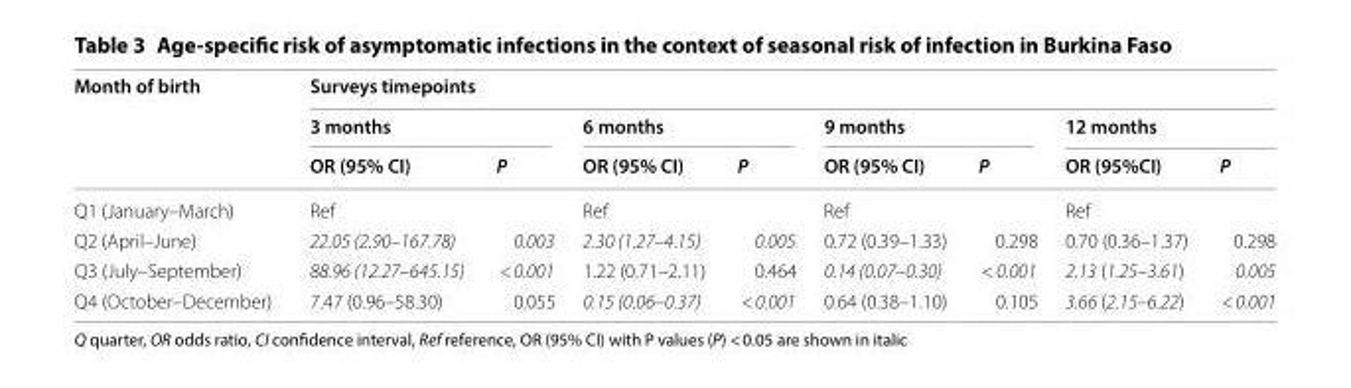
<table><thead><tr><td rowspan="3">Month of birth</td><td colspan="8">Surveys timepoints</td></tr><tr><td colspan="2">3 months</td><td colspan="2">6 months</td><td colspan="2">9 months</td><td colspan="2">12 months</td></tr><tr><td>OR (95% CI)</td><td>P</td><td>OR (95% CI)</td><td>P</td><td>OR (95% CI)</td><td>P</td><td>OR (95%CI)</td><td>P</td></tr></thead><tbody><tr><td>Q1 (January–March)</td><td>Ref</td><td></td><td>Ref</td><td></td><td>Ref</td><td></td><td>Ref</td><td></td></tr><tr><td>Q2 (April–June)</td><td>22.05 (2.90–167.78)</td><td>0.003</td><td>2.30 (1.27–4.15)</td><td>0.005</td><td>0.72 (0.39–1.33)</td><td>0.298</td><td>0.70 (0.36–1.37)</td><td>0.298</td></tr><tr><td>Q3 (July–September)</td><td>88.96 (12.27–645.15)</td><td>&lt; 0.001</td><td>1.22 (0.71–2.11)</td><td>0.464</td><td>0.14 (0.07–0.30)</td><td>&lt; 0.001</td><td>2.13 (1.25–3.61)</td><td>0.005</td></tr><tr><td>Q4 (October–December)</td><td>7.47 (0.96–58.30)</td><td>0.055</td><td>0.15 (0.06–0.37)</td><td>&lt; 0.001</td><td>0.64 (0.38–1.10)</td><td>0.105</td><td>3.66 (2.15–6.22)</td><td>&lt; 0.001</td></tr></tbody></table>